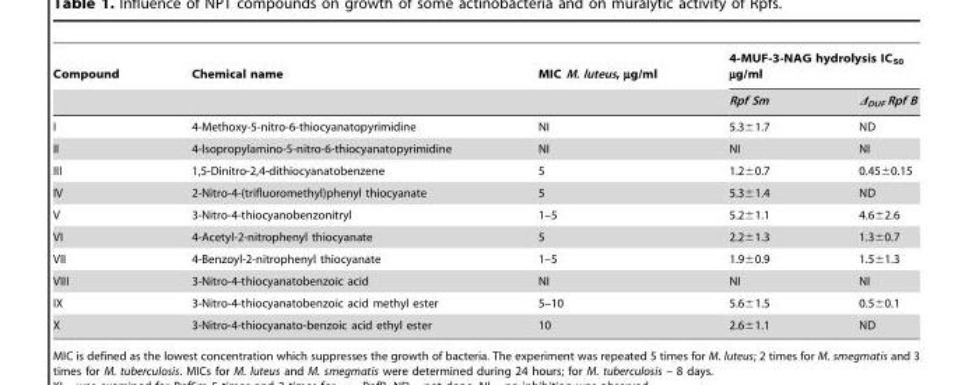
<table><thead><tr><td rowspan="2">Compound</td><td rowspan="2">Chemical name</td><td rowspan="2">MIC M. luteus, µg/ml</td><td colspan="2">4-MUF-3-NAG hydrolysis IC<sub>50</sub> µg/ml</td></tr><tr><td>Rpf Sm</td><td>Δ<sub>DUF</sub> Rpf B</td></tr></thead><tbody><tr><td>I</td><td>4-Methoxy-5-nitro-6-thiocyanatopyrimidine</td><td>NI</td><td>5.3±1.7</td><td>ND</td></tr><tr><td>II</td><td>4-Isopropylamino-5-nitro-6-thiocyanatopyrimidine</td><td>NI</td><td>NI</td><td>NI</td></tr><tr><td>III</td><td>1,5-Dinitro-2,4-dithiocyanatobenzene</td><td>5</td><td>1.2±0.7</td><td>0.45±0.15</td></tr><tr><td>IV</td><td>2-Nitro-4-(trifluoromethyl)phenyl thiocyanate</td><td>5</td><td>5.3±1.4</td><td>ND</td></tr><tr><td>V</td><td>3-Nitro-4-thiocyanobenzonitryl</td><td>1–5</td><td>5.2±1.1</td><td>4.6±2.6</td></tr><tr><td>VI</td><td>4-Acetyl-2-nitrophenyl thiocyanate</td><td>5</td><td>2.2±1.3</td><td>1.3±0.7</td></tr><tr><td>VII</td><td>4-Benzoyl-2-nitrophenyl thiocyanate</td><td>1–5</td><td>1.9±0.9</td><td>1.5±1.3</td></tr><tr><td>VIII</td><td>3-Nitro-4-thiocyanatobenzoic acid</td><td>NI</td><td>NI</td><td>NI</td></tr><tr><td>IX</td><td>3-Nitro-4-thiocyanatobenzoic acid methyl ester</td><td>5–10</td><td>5.6±1.5</td><td>0.5±0.1</td></tr><tr><td>X</td><td>3-Nitro-4-thiocyanato-benzoic acid ethyl ester</td><td>10</td><td>2.6±1.1</td><td>ND</td></tr></tbody></table>